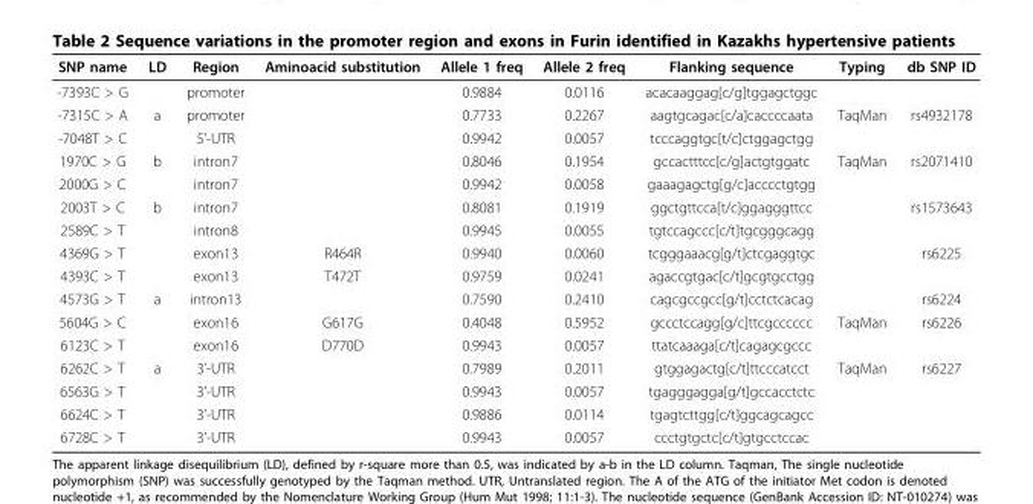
<table><thead><tr><td>SNP name</td><td>LD</td><td>Region</td><td>Aminoacid substitution</td><td>Allele 1 freq</td><td>Allele 2 freq</td><td>Flanking sequence</td><td>Typing</td><td>db SNP ID</td></tr></thead><tbody><tr><td>-7393C &gt; G</td><td></td><td>promoter</td><td></td><td>0.9884</td><td>0.0116</td><td>acacaaggag[c/g]tggagctggc</td><td></td><td></td></tr><tr><td>-7315C &gt; A</td><td>a</td><td>promoter</td><td></td><td>0.7733</td><td>0.2267</td><td>aagtgcagac[c/a]caccccaata</td><td>TaqMan</td><td>rs4932178</td></tr><tr><td>-7048T &gt; C</td><td></td><td>5’-UTR</td><td></td><td>0.9942</td><td>0.0057</td><td>tcccaggtgc[t/c]ctggagctgg</td><td></td><td></td></tr><tr><td>1970C &gt; G</td><td>b</td><td>intron7</td><td></td><td>0.8046</td><td>0.1954</td><td>gccactttcc[c/g]actgtggatc</td><td>TaqMan</td><td>rs2071410</td></tr><tr><td>2000G &gt; C</td><td></td><td>intron7</td><td></td><td>0.9942</td><td>0.0058</td><td>gaaagagctg[g/c]acccctgtgg</td><td></td><td></td></tr><tr><td>2003T &gt; C</td><td>b</td><td>intron7</td><td></td><td>0.8081</td><td>0.1919</td><td>ggctgttcca[t/c]ggagggttcc</td><td></td><td>rs1573643</td></tr><tr><td>2589C &gt; T</td><td></td><td>intron8</td><td></td><td>0.9945</td><td>0.0055</td><td>tgtccagccc[c/t]tgcgggcagg</td><td></td><td></td></tr><tr><td>4369G &gt; T</td><td></td><td>exon13</td><td>R464R</td><td>0.9940</td><td>0.0060</td><td>tcgggaaacg[g/t]ctcgaggtgc</td><td></td><td>rs6225</td></tr><tr><td>4393C &gt; T</td><td></td><td>exon13</td><td>T472T</td><td>0.9759</td><td>0.0241</td><td>agaccgtgac[c/t]gcgtgcctgg</td><td></td><td></td></tr><tr><td>4573G &gt; T</td><td>a</td><td>intron13</td><td></td><td>0.7590</td><td>0.2410</td><td>cagcgccgcc[g/t]cctctcacag</td><td></td><td>rs6224</td></tr><tr><td>5604G &gt; C</td><td></td><td>exon16</td><td>G617G</td><td>0.4048</td><td>0.5952</td><td>gccctccagg[g/c]ttcgcccccc</td><td>TaqMan</td><td>rs6226</td></tr><tr><td>6123C &gt; T</td><td></td><td>exon16</td><td>D770D</td><td>0.9943</td><td>0.0057</td><td>ttatcaaaga[c/t]cagagcgccc</td><td></td><td></td></tr><tr><td>6262C &gt; T</td><td>a</td><td>3’-UTR</td><td></td><td>0.7989</td><td>0.2011</td><td>gtggagactg[c/t]ttcccatcct</td><td>TaqMan</td><td>rs6227</td></tr><tr><td>6563G &gt; T</td><td></td><td>3’-UTR</td><td></td><td>0.9943</td><td>0.0057</td><td>tgagggagga[g/t]gccacctctc</td><td></td><td></td></tr><tr><td>6624C &gt; T</td><td></td><td>3’-UTR</td><td></td><td>0.9886</td><td>0.0114</td><td>tgagtcttgg[c/t]ggcagcagcc</td><td></td><td></td></tr><tr><td>6728C &gt; T</td><td></td><td>3’-UTR</td><td></td><td>0.9943</td><td>0.0057</td><td>ccctgtgctc[c/t]gtgcctccac</td><td></td><td></td></tr></tbody></table>